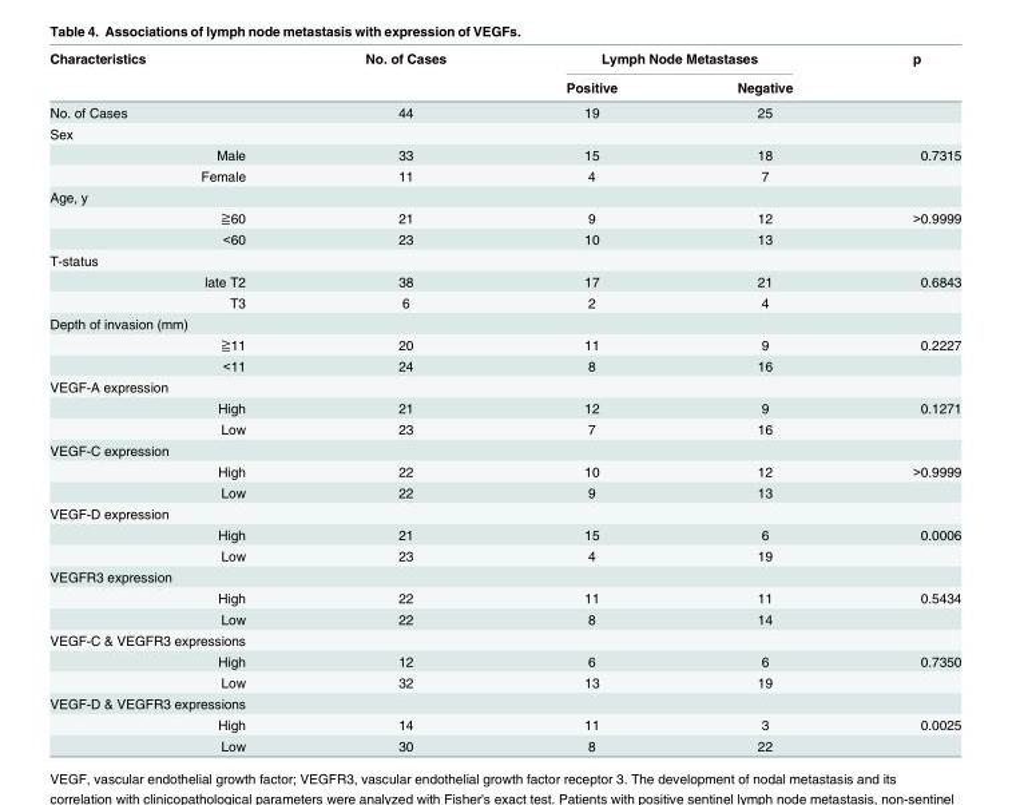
<table><thead><tr><td rowspan="2">Characteristics</td><td rowspan="2">No. of Cases</td><td colspan="2">Lymph Node Metastases</td><td rowspan="2">p</td></tr><tr><td>Positive</td><td>Negative</td></tr></thead><tbody><tr><td>No. of Cases</td><td>44</td><td>19</td><td>25</td><td></td></tr><tr><td colspan="5">Sex</td></tr><tr><td>Male</td><td>33</td><td>15</td><td>18</td><td>0.7315</td></tr><tr><td>Female</td><td>11</td><td>4</td><td>7</td><td></td></tr><tr><td colspan="5">Age, y</td></tr><tr><td>≧60</td><td>21</td><td>9</td><td>12</td><td>&gt;0.9999</td></tr><tr><td>&lt;60</td><td>23</td><td>10</td><td>13</td><td></td></tr><tr><td colspan="5">T-status</td></tr><tr><td>late T2</td><td>38</td><td>17</td><td>21</td><td>0.6843</td></tr><tr><td>T3</td><td>6</td><td>2</td><td>4</td><td></td></tr><tr><td colspan="5">Depth of invasion (mm)</td></tr><tr><td>≧11</td><td>20</td><td>11</td><td>9</td><td>0.2227</td></tr><tr><td>&lt;11</td><td>24</td><td>8</td><td>16</td><td></td></tr><tr><td colspan="5">VEGF-A expression</td></tr><tr><td>High</td><td>21</td><td>12</td><td>9</td><td>0.1271</td></tr><tr><td>Low</td><td>23</td><td>7</td><td>16</td><td></td></tr><tr><td colspan="5">VEGF-C expression</td></tr><tr><td>High</td><td>22</td><td>10</td><td>12</td><td>&gt;0.9999</td></tr><tr><td>Low</td><td>22</td><td>9</td><td>13</td><td></td></tr><tr><td colspan="5">VEGF-D expression</td></tr><tr><td>High</td><td>21</td><td>15</td><td>6</td><td>0.0006</td></tr><tr><td>Low</td><td>23</td><td>4</td><td>19</td><td></td></tr><tr><td colspan="5">VEGFR3 expression</td></tr><tr><td>High</td><td>22</td><td>11</td><td>11</td><td>0.5434</td></tr><tr><td>Low</td><td>22</td><td>8</td><td>14</td><td></td></tr><tr><td colspan="5">VEGF-C &amp; VEGFR3 expressions</td></tr><tr><td>High</td><td>12</td><td>6</td><td>6</td><td>0.7350</td></tr><tr><td>Low</td><td>32</td><td>13</td><td>19</td><td></td></tr><tr><td colspan="5">VEGF-D &amp; VEGFR3 expressions</td></tr><tr><td>High</td><td>14</td><td>11</td><td>3</td><td>0.0025</td></tr><tr><td>Low</td><td>30</td><td>8</td><td>22</td><td></td></tr></tbody></table>